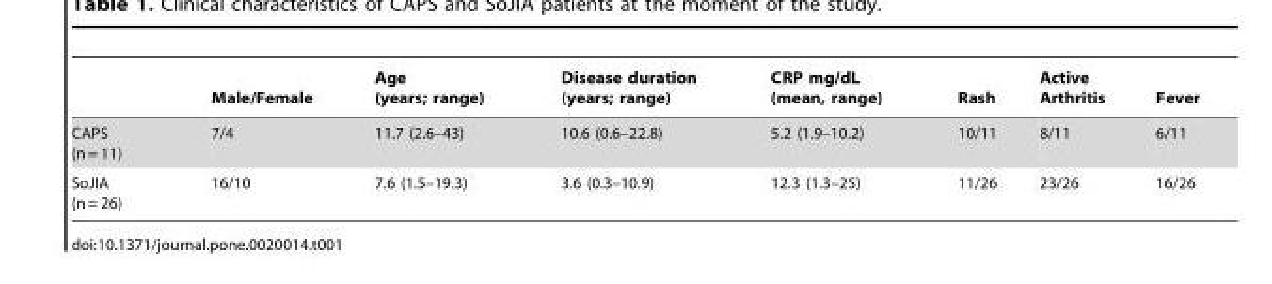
<table><thead><tr><td></td><td>Male/Female</td><td>Age (years; range)</td><td>Disease duration (years; range)</td><td>CRP mg/dL (mean, range)</td><td>Rash</td><td>Active Arthritis</td><td>Fever</td></tr></thead><tbody><tr><td>CAPS (n = 11)</td><td>7/4</td><td>11.7 (2.6–43)</td><td>10.6 (0.6–22.8)</td><td>5.2 (1.9–10.2)</td><td>10/11</td><td>8/11</td><td>6/11</td></tr><tr><td>SoJIA (n = 26)</td><td>16/10</td><td>7.6 (1.5–19.3)</td><td>3.6 (0.3–10.9)</td><td>12.3 (1.3–25)</td><td>11/26</td><td>23/26</td><td>16/26</td></tr></tbody></table>